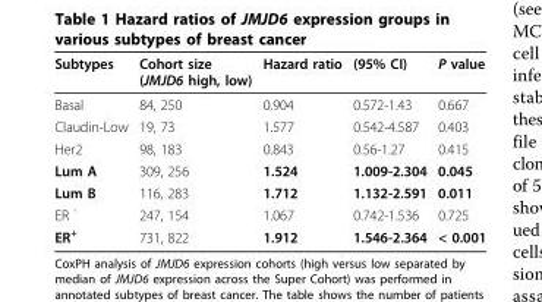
<table><thead><tr><td>Subtypes</td><td>Cohort size (JMJD6 high, low)</td><td>Hazard ratio</td><td>(95% CI)</td><td>P value</td></tr></thead><tbody><tr><td>Basal</td><td>84, 250</td><td>0.904</td><td>0.572-1.43</td><td>0.667</td></tr><tr><td>Claudin-Low</td><td>19, 73</td><td>1.577</td><td>0.542-4.587</td><td>0.403</td></tr><tr><td>Her2</td><td>98, 183</td><td>0.843</td><td>0.56-1.27</td><td>0.415</td></tr><tr><td>Lum A</td><td>309, 256</td><td>1.524</td><td>1.009-2.304</td><td>0.045</td></tr><tr><td>Lum B</td><td>116, 283</td><td>1.712</td><td>1.132-2.591</td><td>0.011</td></tr><tr><td>ER <sup>-</sup></td><td>247, 154</td><td>1.067</td><td>0.742-1.536</td><td>0.725</td></tr><tr><td>ER<sup>+</sup></td><td>731, 822</td><td>1.912</td><td>1.546-2.364</td><td>&lt; 0.001</td></tr></tbody></table>